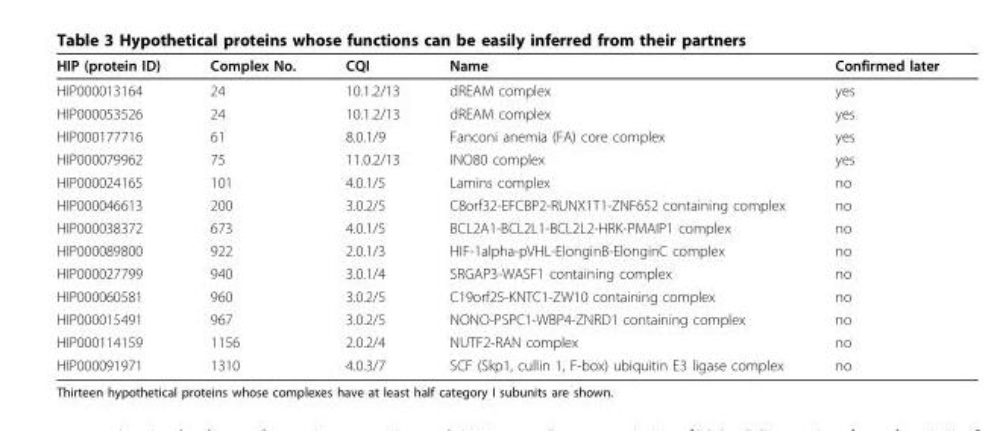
<table><thead><tr><td>HIP (protein ID)</td><td>Complex No.</td><td>CQI</td><td>Name</td><td>Confirmed later</td></tr></thead><tbody><tr><td>HIP000013164</td><td>24</td><td>10.1.2/13</td><td>dREAM complex</td><td>yes</td></tr><tr><td>HIP000053526</td><td>24</td><td>10.1.2/13</td><td>dREAM complex</td><td>yes</td></tr><tr><td>HIP000177716</td><td>61</td><td>8.0.1/9</td><td>Fanconi anemia (FA) core complex</td><td>yes</td></tr><tr><td>HIP000079962</td><td>75</td><td>11.0.2/13</td><td>INO80 complex</td><td>yes</td></tr><tr><td>HIP000024165</td><td>101</td><td>4.0.1/5</td><td>Lamins complex</td><td>no</td></tr><tr><td>HIP000046613</td><td>200</td><td>3.0.2/5</td><td>C8orf32-EFCBP2-RUNX1T1-ZNF652 containing complex</td><td>no</td></tr><tr><td>HIP000038372</td><td>673</td><td>4.0.1/5</td><td>BCL2A1-BCL2L1-BCL2L2-HRK-PMAIP1 complex</td><td>no</td></tr><tr><td>HIP000089800</td><td>922</td><td>2.0.1/3</td><td>HIF-1alpha-pVHL-ElonginB-ElonginC complex</td><td>no</td></tr><tr><td>HIP000027799</td><td>940</td><td>3.0.1/4</td><td>SRGAP3-WASF1 containing complex</td><td>no</td></tr><tr><td>HIP000060581</td><td>960</td><td>3.0.2/5</td><td>C19orf25-KNTC1-ZW10 containing complex</td><td>no</td></tr><tr><td>HIP000015491</td><td>967</td><td>3.0.2/5</td><td>NONO-PSPC1-WBP4-ZNRD1 containing complex</td><td>no</td></tr><tr><td>HIP000114159</td><td>1156</td><td>2.0.2/4</td><td>NUTF2-RAN complex</td><td>no</td></tr><tr><td>HIP000091971</td><td>1310</td><td>4.0.3/7</td><td>SCF (Skp1, cullin 1, F-box) ubiquitin E3 ligase complex</td><td>no</td></tr></tbody></table>